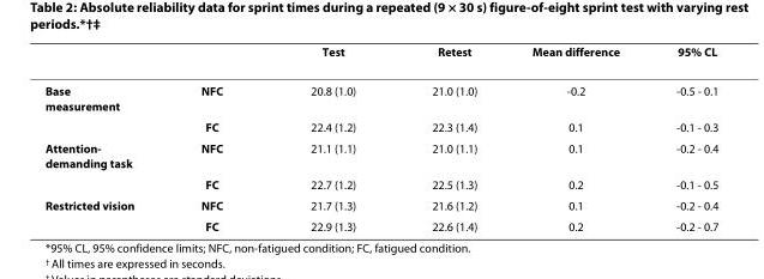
<table><thead><tr><td></td><td></td><td>Test</td><td>Retest</td><td>Mean difference</td><td>95% CL</td></tr></thead><tbody><tr><td rowspan="2">Base measurement</td><td>NFC</td><td>20.8 (1.0)</td><td>21.0 (1.0)</td><td>-0.2</td><td>-0.5 - 0.1</td></tr><tr><td>FC</td><td>22.4 (1.2)</td><td>22.3 (1.4)</td><td>0.1</td><td>-0.1 - 0.3</td></tr><tr><td rowspan="2">Attention- demanding task</td><td>NFC</td><td>21.1 (1.1)</td><td>21.0 (1.1)</td><td>0.1</td><td>-0.2 - 0.4</td></tr><tr><td>FC</td><td>22.7 (1.2)</td><td>22.5 (1.3)</td><td>0.2</td><td>-0.1 - 0.5</td></tr><tr><td rowspan="2">Restricted vision</td><td>NFC</td><td>21.7 (1.3)</td><td>21.6 (1.2)</td><td>0.1</td><td>-0.2 - 0.4</td></tr><tr><td>FC</td><td>22.9 (1.3)</td><td>22.6 (1.4)</td><td>0.2</td><td>-0.2 - 0.7</td></tr></tbody></table>